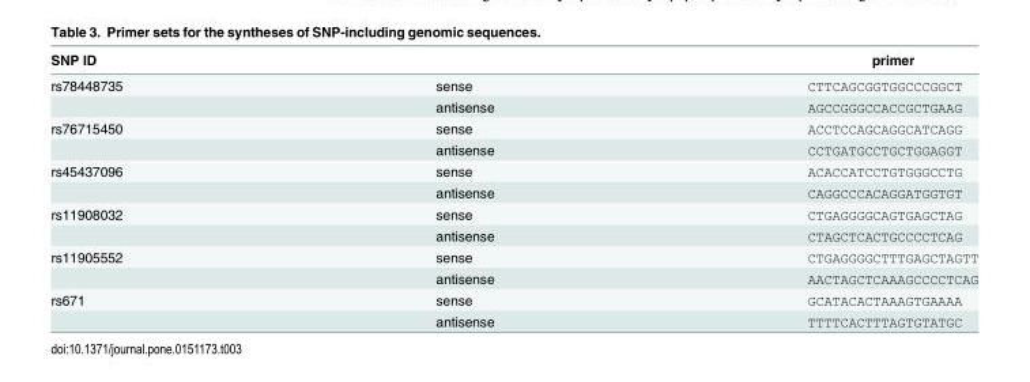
<table><thead><tr><td>SNP ID</td><td></td><td>primer</td></tr></thead><tbody><tr><td rowspan="2">rs78448735</td><td>sense</td><td>CTTCAGCGGTGGCCCGGCT</td></tr><tr><td>antisense</td><td>AGCCGGGCCACCGCTGAAG</td></tr><tr><td rowspan="2">rs76715450</td><td>sense</td><td>ACCTCCAGCAGGCATCAGG</td></tr><tr><td>antisense</td><td>CCTGATGCCTGCTGGAGGT</td></tr><tr><td rowspan="2">rs45437096</td><td>sense</td><td>ACACCATCCTGTGGGCCTG</td></tr><tr><td>antisense</td><td>CAGGCCCACAGGATGGTGT</td></tr><tr><td rowspan="2">rs11908032</td><td>sense</td><td>CTGAGGGGCAGTGAGCTAG</td></tr><tr><td>antisense</td><td>CTAGCTCACTGCCCCTCAG</td></tr><tr><td rowspan="2">rs11905552</td><td>sense</td><td>CTGAGGGGCTTTGAGCTAGTT</td></tr><tr><td>antisense</td><td>AACTAGCTCAAAGCCCCTCAG</td></tr><tr><td rowspan="2">rs671</td><td>sense</td><td>GCATACACTAAAGTGAAAA</td></tr><tr><td>antisense</td><td>TTTTCACTTTAGTGTATGC</td></tr></tbody></table>